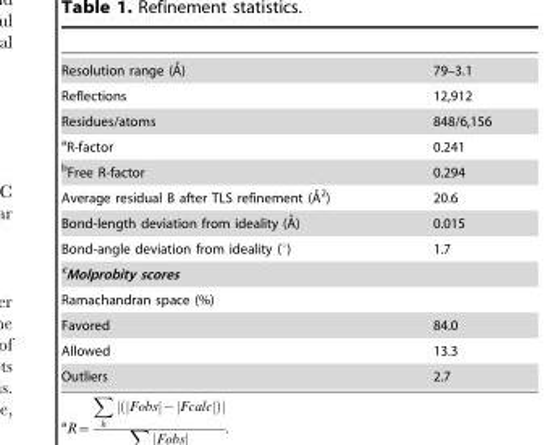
<table><tbody><tr><td>Resolution range (A˚)</td><td>79–3.1</td></tr><tr><td>Reflections</td><td>12,912</td></tr><tr><td>Residues/atoms</td><td>848/6,156</td></tr><tr><td>aR-factor</td><td>0.241</td></tr><tr><td>bFree R-factor</td><td>0.294</td></tr><tr><td>Average residual B after TLS refinement (A˚2)</td><td>20.6</td></tr><tr><td>Bond-length deviation from ideality (A˚)</td><td>0.015</td></tr><tr><td>Bond-angle deviation from ideality (°)</td><td>1.7</td></tr><tr><td colspan="2">cMolprobity scores</td></tr><tr><td colspan="2">Ramachandran space (%)</td></tr><tr><td>Favored</td><td>84.0</td></tr><tr><td>Allowed</td><td>13.3</td></tr><tr><td>Outliers</td><td>2.7</td></tr></tbody></table>